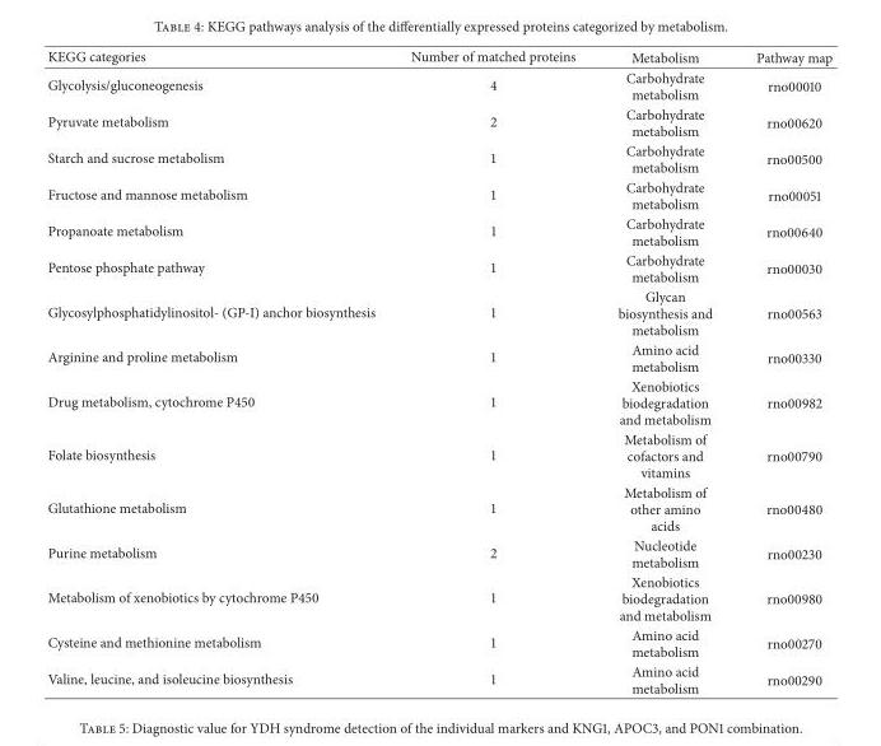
<table><thead><tr><td>KEGG categories</td><td>Number of matched proteins</td><td>Metabolism</td><td>Pathway map</td></tr></thead><tbody><tr><td>Glycolysis/gluconeogenesis</td><td>4</td><td>Carbohydrate metabolism</td><td>rno00010</td></tr><tr><td>Pyruvate metabolism</td><td>2</td><td>Carbohydrate metabolism</td><td>rno00620</td></tr><tr><td>Starch and sucrose metabolism</td><td>1</td><td>Carbohydrate metabolism</td><td>rno00500</td></tr><tr><td>Fructose and mannose metabolism</td><td>1</td><td>Carbohydrate metabolism</td><td>rno00051</td></tr><tr><td>Propanoate metabolism</td><td>1</td><td>Carbohydrate metabolism</td><td>rno00640</td></tr><tr><td>Pentose phosphate pathway</td><td>1</td><td>Carbohydrate metabolism</td><td>rno00030</td></tr><tr><td>Glycosylphosphatidylinositol- (GP-I) anchor biosynthesis</td><td>1</td><td>Glycan biosynthesis and metabolism</td><td>rno00563</td></tr><tr><td>Arginine and proline metabolism</td><td>1</td><td>Amino acid metabolism</td><td>rno00330</td></tr><tr><td>Drug metabolism, cytochrome P450</td><td>1</td><td>Xenobiotics biodegradation and metabolism</td><td>rno00982</td></tr><tr><td>Folate biosynthesis</td><td>1</td><td>Metabolism of cofactors and vitamins</td><td>rno00790</td></tr><tr><td>Glutathione metabolism</td><td>1</td><td>Metabolism of other amino acids</td><td>rno00480</td></tr><tr><td>Purine metabolism</td><td>2</td><td>Nucleotide metabolism</td><td>rno00230</td></tr><tr><td>Metabolism of xenobiotics by cytochrome P450</td><td>1</td><td>Xenobiotics biodegradation and metabolism</td><td>rno00980</td></tr><tr><td>Cysteine and methionine metabolism</td><td>1</td><td>Amino acid metabolism</td><td>rno00270</td></tr><tr><td>Valine, leucine, and isoleucine biosynthesis</td><td>1</td><td>Amino acid metabolism</td><td>rno00290</td></tr></tbody></table>